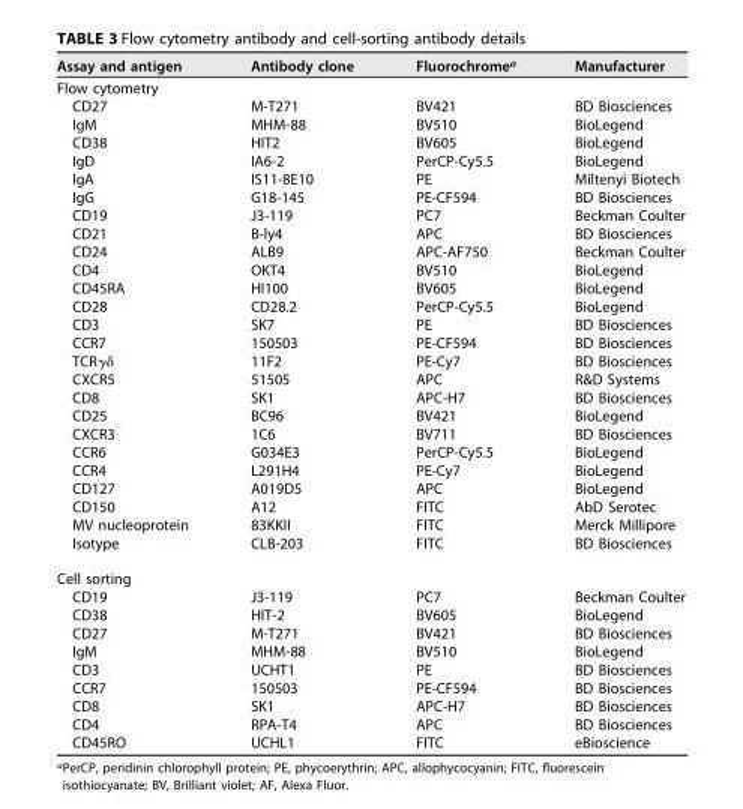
<table><thead><tr><td>Assay and antigen</td><td>Antibody clone</td><td>Fluorochrome<sup>a</sup></td><td>Manufacturer</td></tr></thead><tbody><tr><td colspan="4">Flow cytometry</td></tr><tr><td>CD27</td><td>M-T271</td><td>BV421</td><td>BD Biosciences</td></tr><tr><td>IgM</td><td>MHM-88</td><td>BV510</td><td>BioLegend</td></tr><tr><td>CD38</td><td>HIT2</td><td>BV605</td><td>BioLegend</td></tr><tr><td>IgD</td><td>IA6-2</td><td>PerCP-Cy5.5</td><td>BioLegend</td></tr><tr><td>IgA</td><td>IS11-8E10</td><td>PE</td><td>Miltenyi Biotech</td></tr><tr><td>IgG</td><td>G18-145</td><td>PE-CF594</td><td>BD Biosciences</td></tr><tr><td>CD19</td><td>J3-119</td><td>PC7</td><td>Beckman Coulter</td></tr><tr><td>CD21</td><td>B-ly4</td><td>APC</td><td>BD Biosciences</td></tr><tr><td>CD24</td><td>ALB9</td><td>APC-AF750</td><td>Beckman Coulter</td></tr><tr><td>CD4</td><td>OKT4</td><td>BV510</td><td>BioLegend</td></tr><tr><td>CD45RA</td><td>HI100</td><td>BV605</td><td>BioLegend</td></tr><tr><td>CD28</td><td>CD28.2</td><td>PerCP-Cy5.5</td><td>BioLegend</td></tr><tr><td>CD3</td><td>SK7</td><td>PE</td><td>BD Biosciences</td></tr><tr><td>CCR7</td><td>150503</td><td>PE-CF594</td><td>BD Biosciences</td></tr><tr><td>TCRγδ</td><td>11F2</td><td>PE-Cy7</td><td>BD Biosciences</td></tr><tr><td>CXCR5</td><td>51505</td><td>APC</td><td>R&amp;D Systems</td></tr><tr><td>CD8</td><td>SK1</td><td>APC-H7</td><td>BD Biosciences</td></tr><tr><td>CD25</td><td>BC96</td><td>BV421</td><td>BioLegend</td></tr><tr><td>CXCR3</td><td>1C6</td><td>BV711</td><td>BD Biosciences</td></tr><tr><td>CCR6</td><td>G034E3</td><td>PerCP-Cy5.5</td><td>BioLegend</td></tr><tr><td>CCR4</td><td>L291H4</td><td>PE-Cy7</td><td>BioLegend</td></tr><tr><td>CD127</td><td>A019D5</td><td>APC</td><td>BioLegend</td></tr><tr><td>CD150</td><td>A12</td><td>FITC</td><td>AbD Serotec</td></tr><tr><td>MV nucleoprotein</td><td>83KKII</td><td>FITC</td><td>Merck Millipore</td></tr><tr><td>Isotype</td><td>CLB-203</td><td>FITC</td><td>BD Biosciences</td></tr><tr><td colspan="4">Cell sorting</td></tr><tr><td>CD19</td><td>J3-119</td><td>PC7</td><td>Beckman Coulter</td></tr><tr><td>CD38</td><td>HIT-2</td><td>BV605</td><td>BioLegend</td></tr><tr><td>CD27</td><td>M-T271</td><td>BV421</td><td>BD Biosciences</td></tr><tr><td>IgM</td><td>MHM-88</td><td>BV510</td><td>BioLegend</td></tr><tr><td>CD3</td><td>UCHT1</td><td>PE</td><td>BD Biosciences</td></tr><tr><td>CCR7</td><td>150503</td><td>PE-CF594</td><td>BD Biosciences</td></tr><tr><td>CD8</td><td>SK1</td><td>APC-H7</td><td>BD Biosciences</td></tr><tr><td>CD4</td><td>RPA-T4</td><td>APC</td><td>BD Biosciences</td></tr><tr><td>CD45RO</td><td>UCHL1</td><td>FITC</td><td>eBioscience</td></tr></tbody></table>